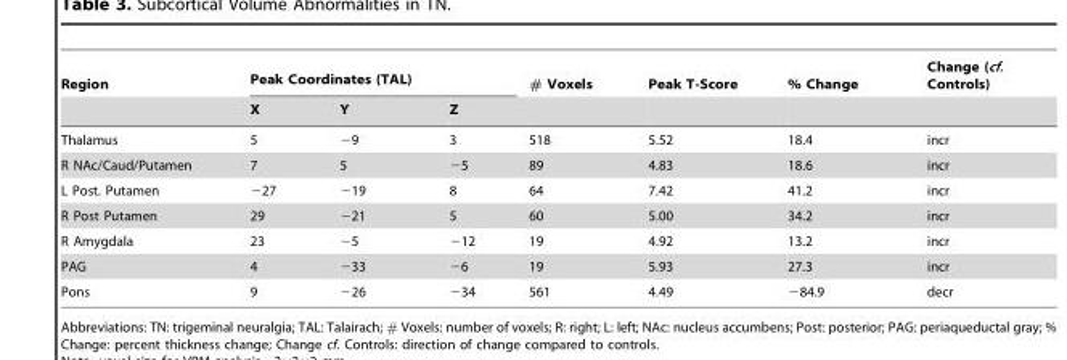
<table><thead><tr><td rowspan="2">Region</td><td colspan="3">Peak Coordinates (TAL)</td><td rowspan="2"># Voxels</td><td rowspan="2">Peak T-Score</td><td rowspan="2">% Change</td><td rowspan="2">Change (cf. Controls)</td></tr><tr><td>X</td><td>Y</td><td>Z</td></tr></thead><tbody><tr><td>Thalamus</td><td>5</td><td>−9</td><td>3</td><td>518</td><td>5.52</td><td>18.4</td><td>incr</td></tr><tr><td>R NAc/Caud/Putamen</td><td>7</td><td>5</td><td>−5</td><td>89</td><td>4.83</td><td>18.6</td><td>incr</td></tr><tr><td>L Post. Putamen</td><td>−27</td><td>−19</td><td>8</td><td>64</td><td>7.42</td><td>41.2</td><td>incr</td></tr><tr><td>R Post Putamen</td><td>29</td><td>−21</td><td>5</td><td>60</td><td>5.00</td><td>34.2</td><td>incr</td></tr><tr><td>R Amygdala</td><td>23</td><td>−5</td><td>−12</td><td>19</td><td>4.92</td><td>13.2</td><td>incr</td></tr><tr><td>PAG</td><td>4</td><td>−33</td><td>−6</td><td>19</td><td>5.93</td><td>27.3</td><td>incr</td></tr><tr><td>Pons</td><td>9</td><td>−26</td><td>−34</td><td>561</td><td>4.49</td><td>−84.9</td><td>decr</td></tr></tbody></table>